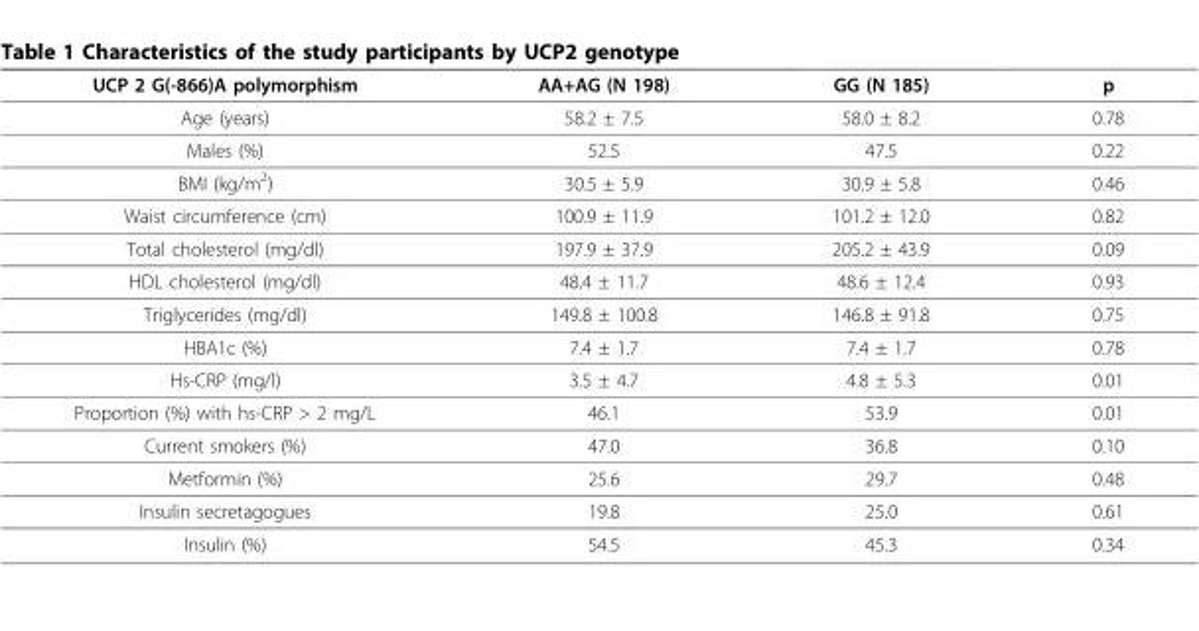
<table><thead><tr><td>UCP 2 G(-866)A polymorphism</td><td>AA+AG (N 198)</td><td>GG (N 185)</td><td>p</td></tr></thead><tbody><tr><td>Age (years)</td><td>58.2 ± 7.5</td><td>58.0 ± 8.2</td><td>0.78</td></tr><tr><td>Males (%)</td><td>52.5</td><td>47.5</td><td>0.22</td></tr><tr><td>BMI (kg/m<sup>2</sup>)</td><td>30.5 ± 5.9</td><td>30.9 ± 5.8</td><td>0.46</td></tr><tr><td>Waist circumference (cm)</td><td>100.9 ± 11.9</td><td>101.2 ± 12.0</td><td>0.82</td></tr><tr><td>Total cholesterol (mg/dl)</td><td>197.9 ± 37.9</td><td>205.2 ± 43.9</td><td>0.09</td></tr><tr><td>HDL cholesterol (mg/dl)</td><td>48.4 ± 11.7</td><td>48.6 ± 12.4</td><td>0.93</td></tr><tr><td>Triglycerides (mg/dl)</td><td>149.8 ± 100.8</td><td>146.8 ± 91.8</td><td>0.75</td></tr><tr><td>HBA1c (%)</td><td>7.4 ± 1.7</td><td>7.4 ± 1.7</td><td>0.78</td></tr><tr><td>Hs-CRP (mg/l)</td><td>3.5 ± 4.7</td><td>4.8 ± 5.3</td><td>0.01</td></tr><tr><td>Proportion (%) with hs-CRP &gt; 2 mg/L</td><td>46.1</td><td>53.9</td><td>0.01</td></tr><tr><td>Current smokers (%)</td><td>47.0</td><td>36.8</td><td>0.10</td></tr><tr><td>Metformin (%)</td><td>25.6</td><td>29.7</td><td>0.48</td></tr><tr><td>Insulin secretagogues</td><td>19.8</td><td>25.0</td><td>0.61</td></tr><tr><td>Insulin (%)</td><td>54.5</td><td>45.3</td><td>0.34</td></tr></tbody></table>